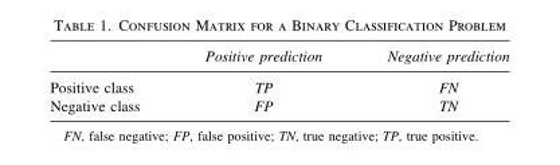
<table><thead><tr><td></td><td>Positive prediction</td><td>Negative prediction</td></tr></thead><tbody><tr><td>Positive class</td><td>TP</td><td>FN</td></tr><tr><td>Negative class</td><td>FP</td><td>TN</td></tr></tbody></table>